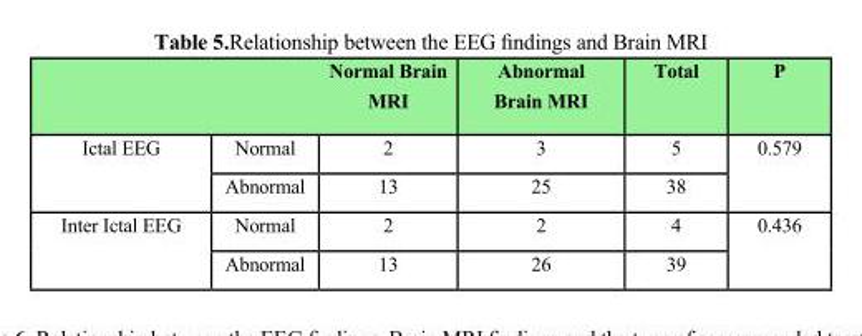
<table><thead><tr><td></td><td></td><td>Normal Brain MRI</td><td>Abnormal Brain MRI</td><td>Total</td><td>P</td></tr></thead><tbody><tr><td rowspan="2">Ictal EEG</td><td>Normal</td><td>2</td><td>3</td><td>5</td><td rowspan="2">0.579</td></tr><tr><td>Abnormal</td><td>13</td><td>25</td><td>38</td></tr><tr><td rowspan="2">Inter Ictal EEG</td><td>Normal</td><td>2</td><td>2</td><td>4</td><td rowspan="2">0.436</td></tr><tr><td>Abnormal</td><td>13</td><td>26</td><td>39</td></tr></tbody></table>